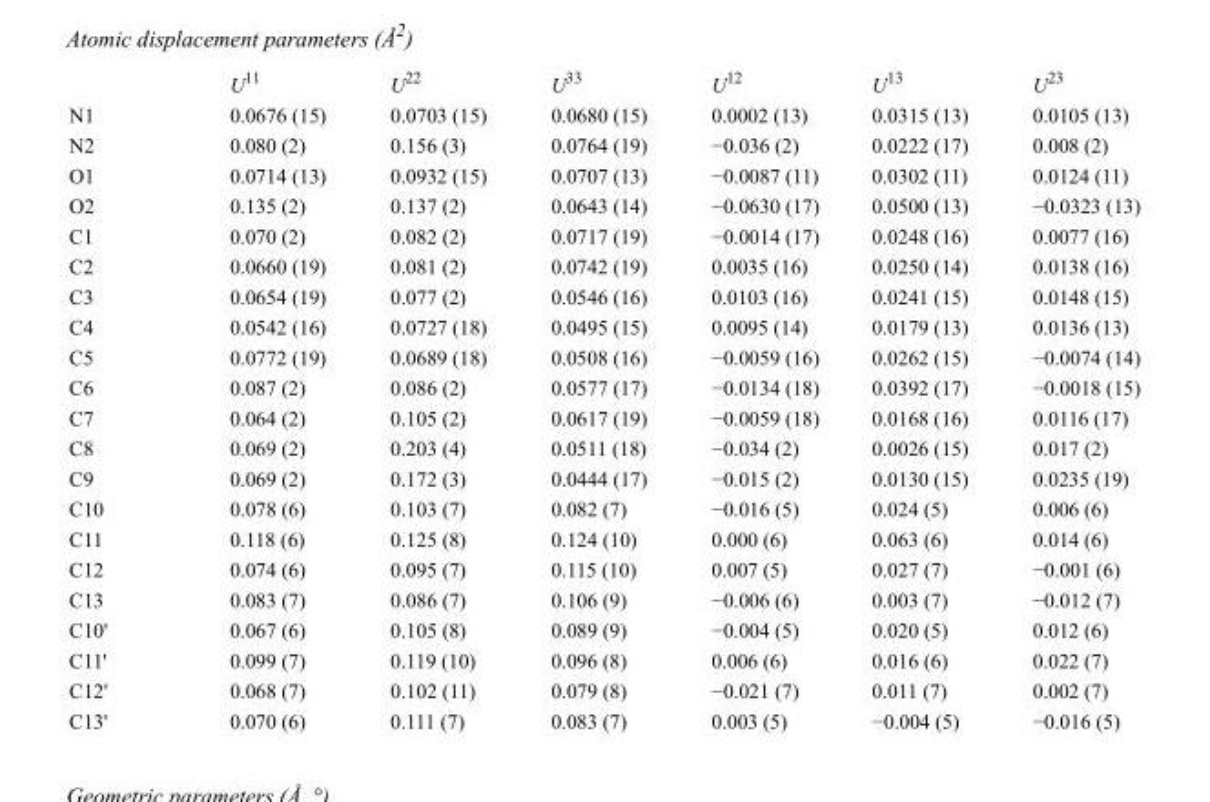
<table><thead><tr><td></td><td>U<sup>11</sup></td><td>U<sup>22</sup></td><td>U<sup>33</sup></td><td>U<sup>12</sup></td><td>U<sup>13</sup></td><td>U<sup>23</sup></td></tr></thead><tbody><tr><td>N1</td><td>0.0676 (15)</td><td>0.0703 (15)</td><td>0.0680 (15)</td><td>0.0002 (13)</td><td>0.0315 (13)</td><td>0.0105 (13)</td></tr><tr><td>N2</td><td>0.080 (2)</td><td>0.156 (3)</td><td>0.0764 (19)</td><td>−0.036 (2)</td><td>0.0222 (17)</td><td>0.008 (2)</td></tr><tr><td>O1</td><td>0.0714 (13)</td><td>0.0932 (15)</td><td>0.0707 (13)</td><td>−0.0087 (11)</td><td>0.0302 (11)</td><td>0.0124 (11)</td></tr><tr><td>O2</td><td>0.135 (2)</td><td>0.137 (2)</td><td>0.0643 (14)</td><td>−0.0630 (17)</td><td>0.0500 (13)</td><td>−0.0323 (13)</td></tr><tr><td>C1</td><td>0.070 (2)</td><td>0.082 (2)</td><td>0.0717 (19)</td><td>−0.0014 (17)</td><td>0.0248 (16)</td><td>0.0077 (16)</td></tr><tr><td>C2</td><td>0.0660 (19)</td><td>0.081 (2)</td><td>0.0742 (19)</td><td>0.0035 (16)</td><td>0.0250 (14)</td><td>0.0138 (16)</td></tr><tr><td>C3</td><td>0.0654 (19)</td><td>0.077 (2)</td><td>0.0546 (16)</td><td>0.0103 (16)</td><td>0.0241 (15)</td><td>0.0148 (15)</td></tr><tr><td>C4</td><td>0.0542 (16)</td><td>0.0727 (18)</td><td>0.0495 (15)</td><td>0.0095 (14)</td><td>0.0179 (13)</td><td>0.0136 (13)</td></tr><tr><td>C5</td><td>0.0772 (19)</td><td>0.0689 (18)</td><td>0.0508 (16)</td><td>−0.0059 (16)</td><td>0.0262 (15)</td><td>−0.0074 (14)</td></tr><tr><td>C6</td><td>0.087 (2)</td><td>0.086 (2)</td><td>0.0577 (17)</td><td>−0.0134 (18)</td><td>0.0392 (17)</td><td>−0.0018 (15)</td></tr><tr><td>C7</td><td>0.064 (2)</td><td>0.105 (2)</td><td>0.0617 (19)</td><td>−0.0059 (18)</td><td>0.0168 (16)</td><td>0.0116 (17)</td></tr><tr><td>C8</td><td>0.069 (2)</td><td>0.203 (4)</td><td>0.0511 (18)</td><td>−0.034 (2)</td><td>0.0026 (15)</td><td>0.017 (2)</td></tr><tr><td>C9</td><td>0.069 (2)</td><td>0.172 (3)</td><td>0.0444 (17)</td><td>−0.015 (2)</td><td>0.0130 (15)</td><td>0.0235 (19)</td></tr><tr><td>C10</td><td>0.078 (6)</td><td>0.103 (7)</td><td>0.082 (7)</td><td>−0.016 (5)</td><td>0.024 (5)</td><td>0.006 (6)</td></tr><tr><td>C11</td><td>0.118 (6)</td><td>0.125 (8)</td><td>0.124 (10)</td><td>0.000 (6)</td><td>0.063 (6)</td><td>0.014 (6)</td></tr><tr><td>C12</td><td>0.074 (6)</td><td>0.095 (7)</td><td>0.115 (10)</td><td>0.007 (5)</td><td>0.027 (7)</td><td>−0.001 (6)</td></tr><tr><td>C13</td><td>0.083 (7)</td><td>0.086 (7)</td><td>0.106 (9)</td><td>−0.006 (6)</td><td>0.003 (7)</td><td>−0.012 (7)</td></tr><tr><td>C10&#x27;</td><td>0.067 (6)</td><td>0.105 (8)</td><td>0.089 (9)</td><td>−0.004 (5)</td><td>0.020 (5)</td><td>0.012 (6)</td></tr><tr><td>C11&#x27;</td><td>0.099 (7)</td><td>0.119 (10)</td><td>0.096 (8)</td><td>0.006 (6)</td><td>0.016 (6)</td><td>0.022 (7)</td></tr><tr><td>C12&#x27;</td><td>0.068 (7)</td><td>0.102 (11)</td><td>0.079 (8)</td><td>−0.021 (7)</td><td>0.011 (7)</td><td>0.002 (7)</td></tr><tr><td>C13&#x27;</td><td>0.070 (6)</td><td>0.111 (7)</td><td>0.083 (7)</td><td>0.003 (5)</td><td>−0.004 (5)</td><td>−0.016 (5)</td></tr></tbody></table>